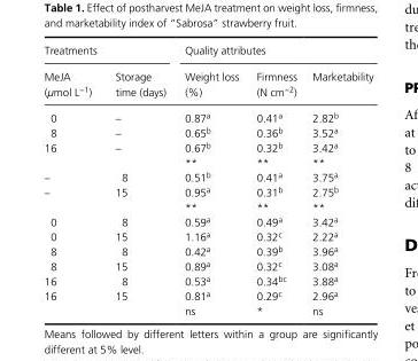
<table><thead><tr><td colspan="2">Treatments</td><td colspan="3">Quality attributes</td></tr><tr><td>MeJA (μmol L<sup>−1</sup>)</td><td>Storage time (days)</td><td>Weight loss (%)</td><td>Firmness (N cm<sup>−2</sup>)</td><td>Marketability</td></tr></thead><tbody><tr><td>0</td><td>–</td><td>0.87<sup>a</sup></td><td>0.41<sup>a</sup></td><td>2.82<sup>b</sup></td></tr><tr><td>8</td><td>–</td><td>0.65<sup>b</sup></td><td>0.36<sup>b</sup></td><td>3.52<sup>a</sup></td></tr><tr><td rowspan="2">16</td><td>–</td><td>0.67<sup>b</sup></td><td>0.32<sup>b</sup></td><td>3.42<sup>a</sup></td></tr><tr><td></td><td>**</td><td>**</td><td>**</td></tr><tr><td>–</td><td>8</td><td>0.51<sup>b</sup></td><td>0.41<sup>a</sup></td><td>3.75<sup>a</sup></td></tr><tr><td rowspan="2">–</td><td>15</td><td>0.95<sup>a</sup></td><td>0.31<sup>b</sup></td><td>2.75<sup>b</sup></td></tr><tr><td></td><td>**</td><td>**</td><td>**</td></tr><tr><td>0</td><td>8</td><td>0.59<sup>a</sup></td><td>0.49<sup>a</sup></td><td>3.42<sup>a</sup></td></tr><tr><td>0</td><td>15</td><td>1.16<sup>a</sup></td><td>0.32<sup>c</sup></td><td>2.22<sup>a</sup></td></tr><tr><td>8</td><td>8</td><td>0.42<sup>a</sup></td><td>0.39<sup>b</sup></td><td>3.96<sup>a</sup></td></tr><tr><td>8</td><td>15</td><td>0.89<sup>a</sup></td><td>0.32<sup>c</sup></td><td>3.08<sup>a</sup></td></tr><tr><td>16</td><td>8</td><td>0.53<sup>a</sup></td><td>0.34<sup>bc</sup></td><td>3.88<sup>a</sup></td></tr><tr><td rowspan="2">16</td><td>15</td><td>0.81<sup>a</sup></td><td>0.29<sup>c</sup></td><td>2.96<sup>a</sup></td></tr><tr><td></td><td>ns</td><td>*</td><td>ns</td></tr></tbody></table>